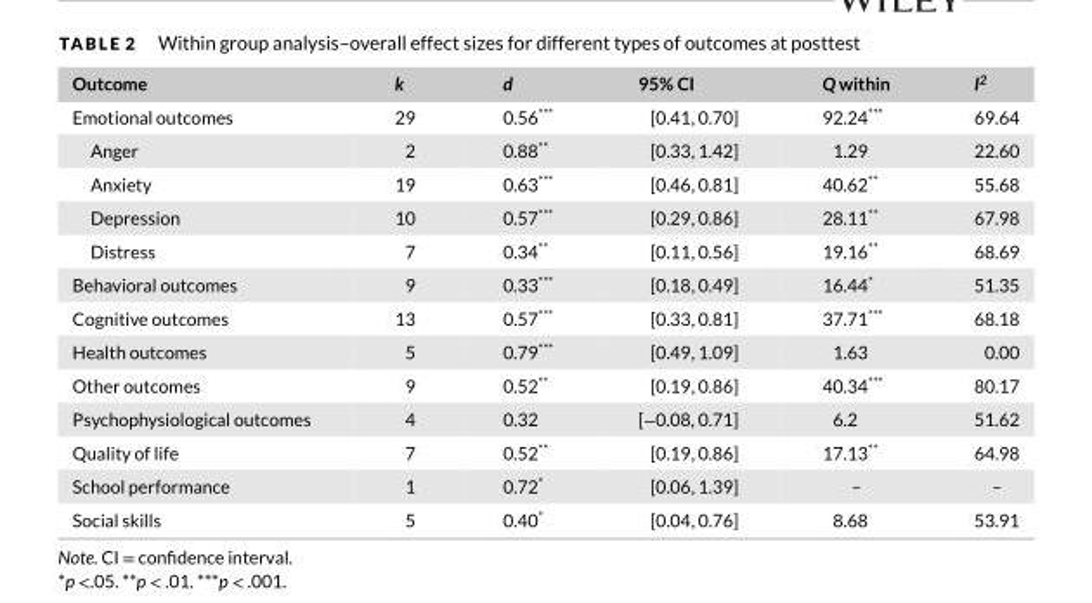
<table><thead><tr><td>Outcome</td><td>k</td><td>d</td><td>95% CI</td><td>Q within</td><td>I<sup>2</sup></td></tr></thead><tbody><tr><td>Emotional outcomes</td><td>29</td><td>0.56***</td><td>[0.41, 0.70]</td><td>92.24***</td><td>69.64</td></tr><tr><td>Anger</td><td>2</td><td>0.88**</td><td>[0.33, 1.42]</td><td>1.29</td><td>22.60</td></tr><tr><td>Anxiety</td><td>19</td><td>0.63***</td><td>[0.46, 0.81]</td><td>40.62**</td><td>55.68</td></tr><tr><td>Depression</td><td>10</td><td>0.57***</td><td>[0.29, 0.86]</td><td>28.11**</td><td>67.98</td></tr><tr><td>Distress</td><td>7</td><td>0.34**</td><td>[0.11, 0.56]</td><td>19.16**</td><td>68.69</td></tr><tr><td>Behavioral outcomes</td><td>9</td><td>0.33***</td><td>[0.18, 0.49]</td><td>16.44*</td><td>51.35</td></tr><tr><td>Cognitive outcomes</td><td>13</td><td>0.57***</td><td>[0.33, 0.81]</td><td>37.71***</td><td>68.18</td></tr><tr><td>Health outcomes</td><td>5</td><td>0.79***</td><td>[0.49, 1.09]</td><td>1.63</td><td>0.00</td></tr><tr><td>Other outcomes</td><td>9</td><td>0.52**</td><td>[0.19, 0.86]</td><td>40.34***</td><td>80.17</td></tr><tr><td>Psychophysiological outcomes</td><td>4</td><td>0.32</td><td>[−0.08, 0.71]</td><td>6.2</td><td>51.62</td></tr><tr><td>Quality of life</td><td>7</td><td>0.52**</td><td>[0.19, 0.86]</td><td>17.13**</td><td>64.98</td></tr><tr><td>School performance</td><td>1</td><td>0.72*</td><td>[0.06, 1.39]</td><td>–</td><td>–</td></tr><tr><td>Social skills</td><td>5</td><td>0.40*</td><td>[0.04, 0.76]</td><td>8.68</td><td>53.91</td></tr></tbody></table>